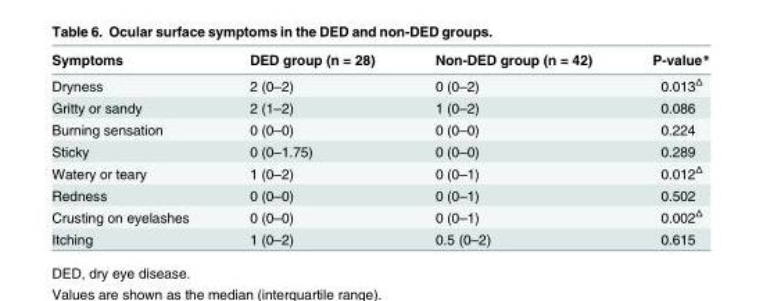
<table><thead><tr><td>Symptoms</td><td>DED group (n = 28)</td><td>Non-DED group (n = 42)</td><td>P-value*</td></tr></thead><tbody><tr><td>Dryness</td><td>2 (0–2)</td><td>0 (0–2)</td><td>0.013<sup>Δ</sup></td></tr><tr><td>Gritty or sandy</td><td>2 (1–2)</td><td>1 (0–2)</td><td>0.086</td></tr><tr><td>Burning sensation</td><td>0 (0–0)</td><td>0 (0–0)</td><td>0.224</td></tr><tr><td>Sticky</td><td>0 (0–1.75)</td><td>0 (0–0)</td><td>0.289</td></tr><tr><td>Watery or teary</td><td>1 (0–2)</td><td>0 (0–1)</td><td>0.012<sup>Δ</sup></td></tr><tr><td>Redness</td><td>0 (0–0)</td><td>0 (0–1)</td><td>0.502</td></tr><tr><td>Crusting on eyelashes</td><td>0 (0–0)</td><td>0 (0–1)</td><td>0.002<sup>Δ</sup></td></tr><tr><td>Itching</td><td>1 (0–2)</td><td>0.5 (0–2)</td><td>0.615</td></tr></tbody></table>